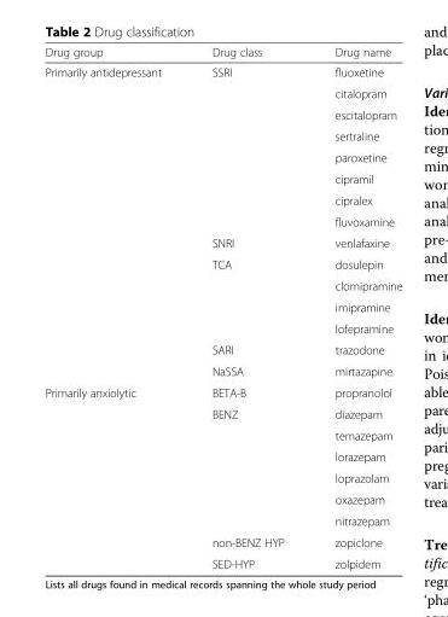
<table><thead><tr><td>Drug group</td><td>Drug class</td><td>Drug name</td></tr></thead><tbody><tr><td rowspan="15">Primarily antidepressant</td><td rowspan="8">SSRI</td><td>fluoxetine</td></tr><tr><td>citalopram</td></tr><tr><td>escitalopram</td></tr><tr><td>sertraline</td></tr><tr><td>paroxetine</td></tr><tr><td>cipramil</td></tr><tr><td>cipralex</td></tr><tr><td>fluvoxamine</td></tr><tr><td>SNRI</td><td>venlafaxine</td></tr><tr><td rowspan="4">TCA</td><td>dosulepin</td></tr><tr><td>clomipramine</td></tr><tr><td>imipramine</td></tr><tr><td>lofepramine</td></tr><tr><td>SARI</td><td>trazodone</td></tr><tr><td>NaSSA</td><td>mirtazapine</td></tr><tr><td rowspan="9">Primarily anxiolytic</td><td>BETA-B</td><td>propranolol</td></tr><tr><td rowspan="6">BENZ</td><td>diazepam</td></tr><tr><td>temazepam</td></tr><tr><td>lorazepam</td></tr><tr><td>loprazolam</td></tr><tr><td>oxazepam</td></tr><tr><td>nitrazepam</td></tr><tr><td>non-BENZ HYP</td><td>zopiclone</td></tr><tr><td>SED-HYP</td><td>zolpidem</td></tr></tbody></table>